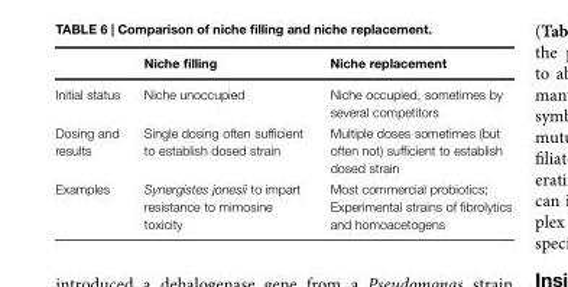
<table><thead><tr><td></td><td>Niche filling</td><td>Niche replacement</td></tr></thead><tbody><tr><td>Initial status</td><td>Niche unoccupied</td><td>Niche occupied, sometimes by several competitors</td></tr><tr><td>Dosing and results</td><td>Single dosing often sufficient to establish dosed strain</td><td>Multiple doses sometimes (but often not) sufficient to establish dosed strain</td></tr><tr><td>Examples</td><td>Synergistes jonesii to impart resistance to mimosine toxicity</td><td>Most commercial probiotics; Experimental strains of fibrolytics and homoacetogens</td></tr></tbody></table>